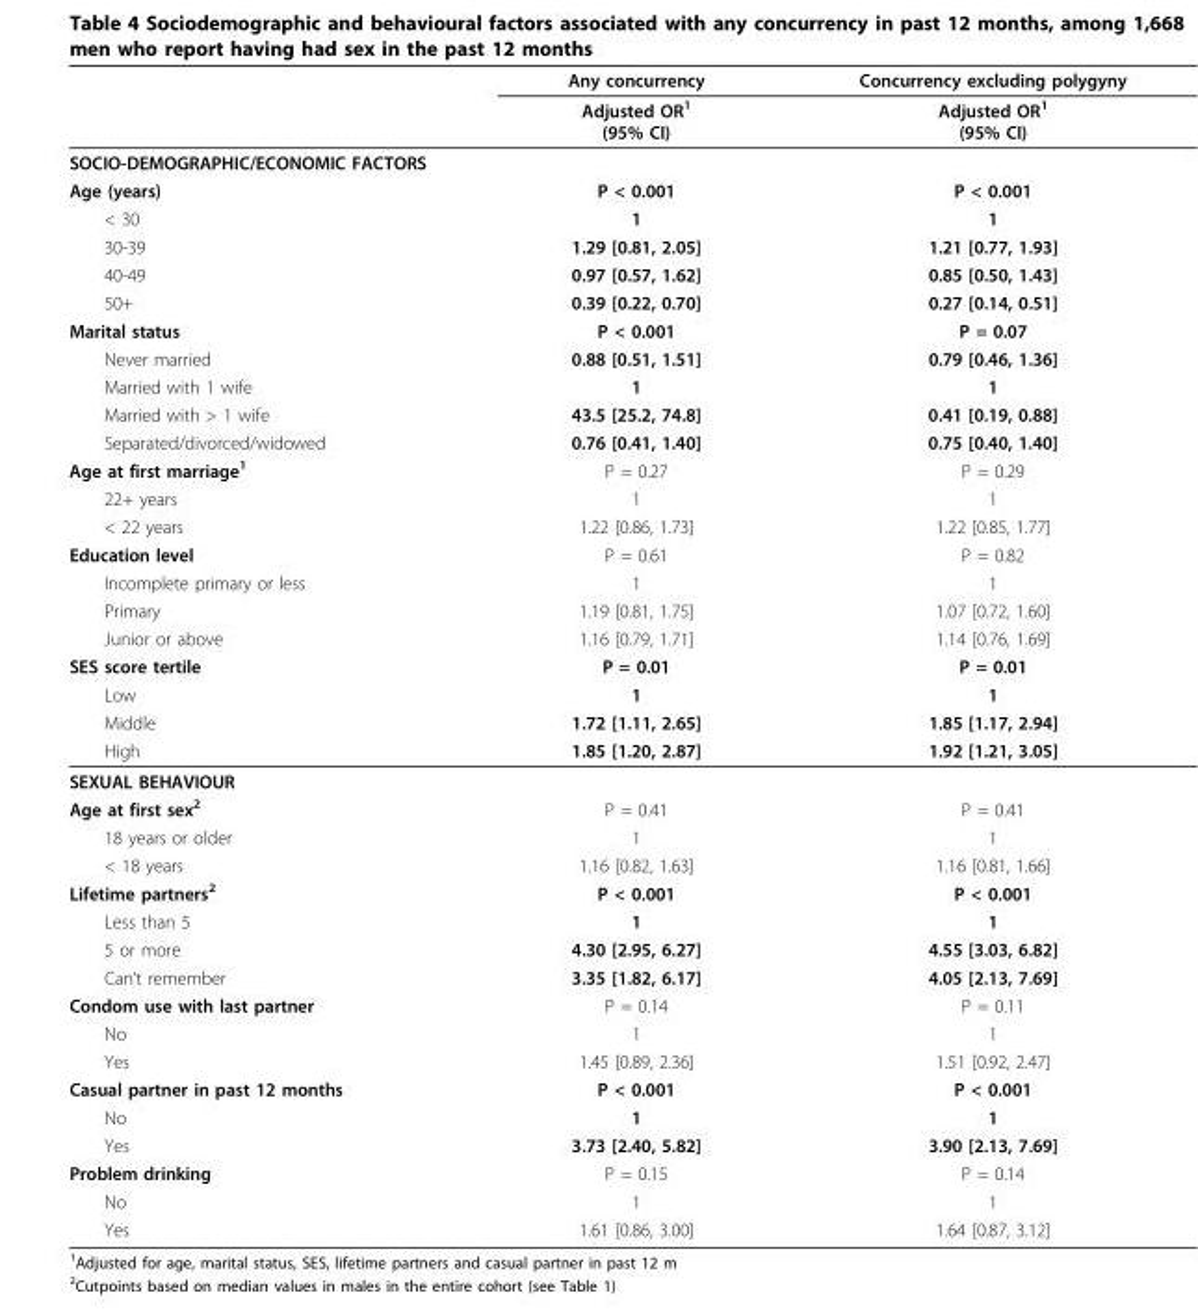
<table><thead><tr><td rowspan="2"></td><td rowspan="2">Any concurrency Adjusted OR<sup>1</sup> (95% CI)</td><td rowspan="2">Concurrency excluding polygyny Adjusted OR<sup>1</sup> (95% CI)</td></tr><tr></tr></thead><tbody><tr><td colspan="3">SOCIO-DEMOGRAPHIC/ECONOMIC FACTORS</td></tr><tr><td>Age (years)</td><td>P &lt; 0.001</td><td>P &lt; 0.001</td></tr><tr><td>&lt; 30</td><td>1</td><td>1</td></tr><tr><td>30-39</td><td>1.29 [0.81, 2.05]</td><td>1.21 [0.77, 1.93]</td></tr><tr><td>40-49</td><td>0.97 [0.57, 1.62]</td><td>0.85 [0.50, 1.43]</td></tr><tr><td>50+</td><td>0.39 [0.22, 0.70]</td><td>0.27 [0.14, 0.51]</td></tr><tr><td>Marital status</td><td>P &lt; 0.001</td><td>P = 0.07</td></tr><tr><td>Never married</td><td>0.88 [0.51, 1.51]</td><td>0.79 [0.46, 1.36]</td></tr><tr><td>Married with 1 wife</td><td>1</td><td>1</td></tr><tr><td>Married with &gt; 1 wife</td><td>43.5 [25.2, 74.8]</td><td>0.41 [0.19, 0.88]</td></tr><tr><td>Separated/divorced/widowed</td><td>0.76 [0.41, 1.40]</td><td>0.75 [0.40, 1.40]</td></tr><tr><td>Age at first marriage<sup>1</sup></td><td>P = 0.27</td><td>P = 0.29</td></tr><tr><td>22+ years</td><td>1</td><td>1</td></tr><tr><td>&lt; 22 years</td><td>1.22 [0.86, 1.73]</td><td>1.22 [0.85, 1.77]</td></tr><tr><td>Education level</td><td>P = 0.61</td><td>P = 0.82</td></tr><tr><td>Incomplete primary or less</td><td>1</td><td>1</td></tr><tr><td>Primary</td><td>1.19 [0.81, 1.75]</td><td>1.07 [0.72, 1.60]</td></tr><tr><td>Junior or above</td><td>1.16 [0.79, 1.71]</td><td>1.14 [0.76, 1.69]</td></tr><tr><td>SES score tertile</td><td>P = 0.01</td><td>P = 0.01</td></tr><tr><td>Low</td><td>1</td><td>1</td></tr><tr><td>Middle</td><td>1.72 [1.11, 2.65]</td><td>1.85 [1.17, 2.94]</td></tr><tr><td>High</td><td>1.85 [1.20, 2.87]</td><td>1.92 [1.21, 3.05]</td></tr><tr><td colspan="3">SEXUAL BEHAVIOUR</td></tr><tr><td>Age at first sex<sup>2</sup></td><td>P = 0.41</td><td>P = 0.41</td></tr><tr><td>18 years or older</td><td>1</td><td>1</td></tr><tr><td>&lt; 18 years</td><td>1.16 [0.82, 1.63]</td><td>1.16 [0.81, 1.66]</td></tr><tr><td>Lifetime partners<sup>2</sup></td><td>P &lt; 0.001</td><td>P &lt; 0.001</td></tr><tr><td>Less than 5</td><td>1</td><td>1</td></tr><tr><td>5 or more</td><td>4.30 [2.95, 6.27]</td><td>4.55 [3.03, 6.82]</td></tr><tr><td>Can’t remember</td><td>3.35 [1.82, 6.17]</td><td>4.05 [2.13, 7.69]</td></tr><tr><td>Condom use with last partner</td><td>P = 0.14</td><td>P = 0.11</td></tr><tr><td>No</td><td>1</td><td>1</td></tr><tr><td>Yes</td><td>1.45 [0.89, 2.36]</td><td>1.51 [0.92, 2.47]</td></tr><tr><td>Casual partner in past 12 months</td><td>P &lt; 0.001</td><td>P &lt; 0.001</td></tr><tr><td>No</td><td>1</td><td>1</td></tr><tr><td>Yes</td><td>3.73 [2.40, 5.82]</td><td>3.90 [2.13, 7.69]</td></tr><tr><td>Problem drinking</td><td>P = 0.15</td><td>P = 0.14</td></tr><tr><td>No</td><td>1</td><td>1</td></tr><tr><td>Yes</td><td>1.61 [0.86, 3.00]</td><td>1.64 [0.87, 3.12]</td></tr></tbody></table>